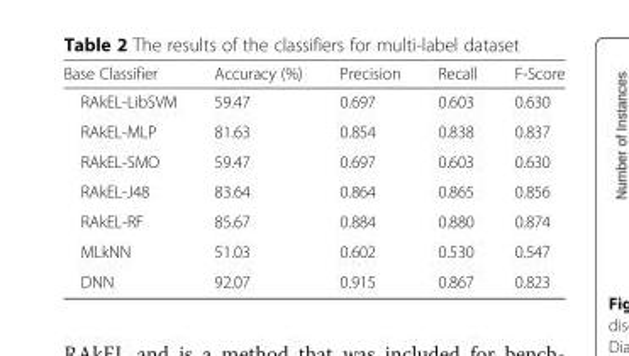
<table><thead><tr><td>Base Classifier</td><td>Accuracy (%)</td><td>Precision</td><td>Recall</td><td>F-Score</td></tr></thead><tbody><tr><td>RAkEL-LibSVM</td><td>59.47</td><td>0.697</td><td>0.603</td><td>0.630</td></tr><tr><td>RAkEL-MLP</td><td>81.63</td><td>0.854</td><td>0.838</td><td>0.837</td></tr><tr><td>RAkEL-SMO</td><td>59.47</td><td>0.697</td><td>0.603</td><td>0.630</td></tr><tr><td>RAkEL-J48</td><td>83.64</td><td>0.864</td><td>0.865</td><td>0.856</td></tr><tr><td>RAkEL-RF</td><td>85.67</td><td>0.884</td><td>0.880</td><td>0.874</td></tr><tr><td>MLkNN</td><td>51.03</td><td>0.602</td><td>0.530</td><td>0.547</td></tr><tr><td>DNN</td><td>92.07</td><td>0.915</td><td>0.867</td><td>0.823</td></tr></tbody></table>